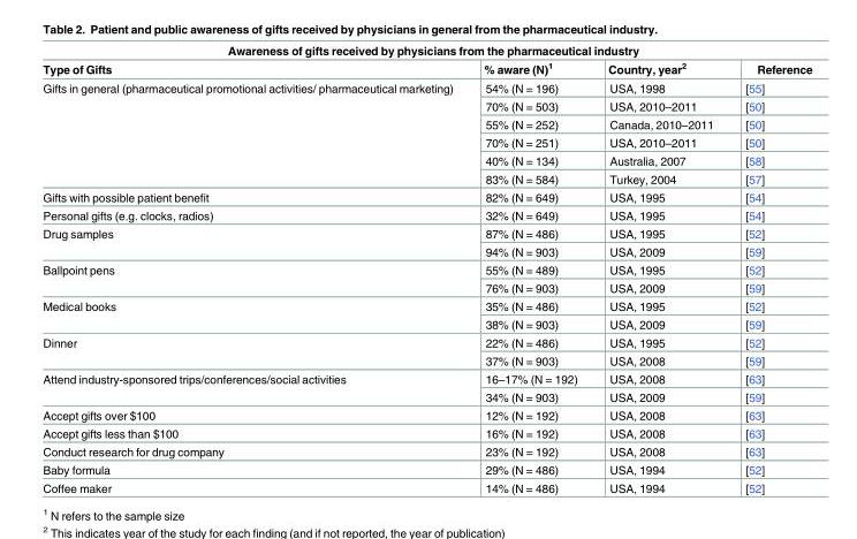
<table><thead><tr><td colspan="4">Awareness of gifts received by physicians from the pharmaceutical industry</td></tr><tr><td>Type of Gifts</td><td>% aware (N)<sup>1</sup></td><td>Country, year<sup>2</sup></td><td>Reference</td></tr></thead><tbody><tr><td rowspan="6">Gifts in general (pharmaceutical promotional activities/ pharmaceutical marketing)</td><td>54% (N = 196)</td><td>USA, 1998</td><td>[55]</td></tr><tr><td>70% (N = 503)</td><td>USA, 2010–2011</td><td>[50]</td></tr><tr><td>55% (N = 252)</td><td>Canada, 2010–2011</td><td>[50]</td></tr><tr><td>70% (N = 251)</td><td>USA, 2010–2011</td><td>[50]</td></tr><tr><td>40% (N = 134)</td><td>Australia, 2007</td><td>[58]</td></tr><tr><td>83% (N = 584)</td><td>Turkey, 2004</td><td>[57]</td></tr><tr><td>Gifts with possible patient benefit</td><td>82% (N = 649)</td><td>USA, 1995</td><td>[54]</td></tr><tr><td>Personal gifts (e.g. clocks, radios)</td><td>32% (N = 649)</td><td>USA, 1995</td><td>[54]</td></tr><tr><td rowspan="2">Drug samples</td><td>87% (N = 486)</td><td>USA, 1995</td><td>[52]</td></tr><tr><td>94% (N = 903)</td><td>USA, 2009</td><td>[59]</td></tr><tr><td rowspan="2">Ballpoint pens</td><td>55% (N = 489)</td><td>USA, 1995</td><td>[52]</td></tr><tr><td>76% (N = 903)</td><td>USA, 2009</td><td>[59]</td></tr><tr><td rowspan="2">Medical books</td><td>35% (N = 486)</td><td>USA, 1995</td><td>[52]</td></tr><tr><td>38% (N = 903)</td><td>USA, 2009</td><td>[59]</td></tr><tr><td rowspan="2">Dinner</td><td>22% (N = 486)</td><td>USA, 1995</td><td>[52]</td></tr><tr><td>37% (N = 903)</td><td>USA, 2008</td><td>[59]</td></tr><tr><td rowspan="2">Attend industry-sponsored trips/conferences/social activities</td><td>16–17% (N = 192)</td><td>USA, 2008</td><td>[63]</td></tr><tr><td>34% (N = 903)</td><td>USA, 2009</td><td>[59]</td></tr><tr><td>Accept gifts over $100</td><td>12% (N = 192)</td><td>USA, 2008</td><td>[63]</td></tr><tr><td>Accept gifts less than $100</td><td>16% (N = 192)</td><td>USA, 2008</td><td>[63]</td></tr><tr><td>Conduct research for drug company</td><td>23% (N = 192)</td><td>USA, 2008</td><td>[63]</td></tr><tr><td>Baby formula</td><td>29% (N = 486)</td><td>USA, 1994</td><td>[52]</td></tr><tr><td>Coffee maker</td><td>14% (N = 486)</td><td>USA, 1994</td><td>[52]</td></tr></tbody></table>